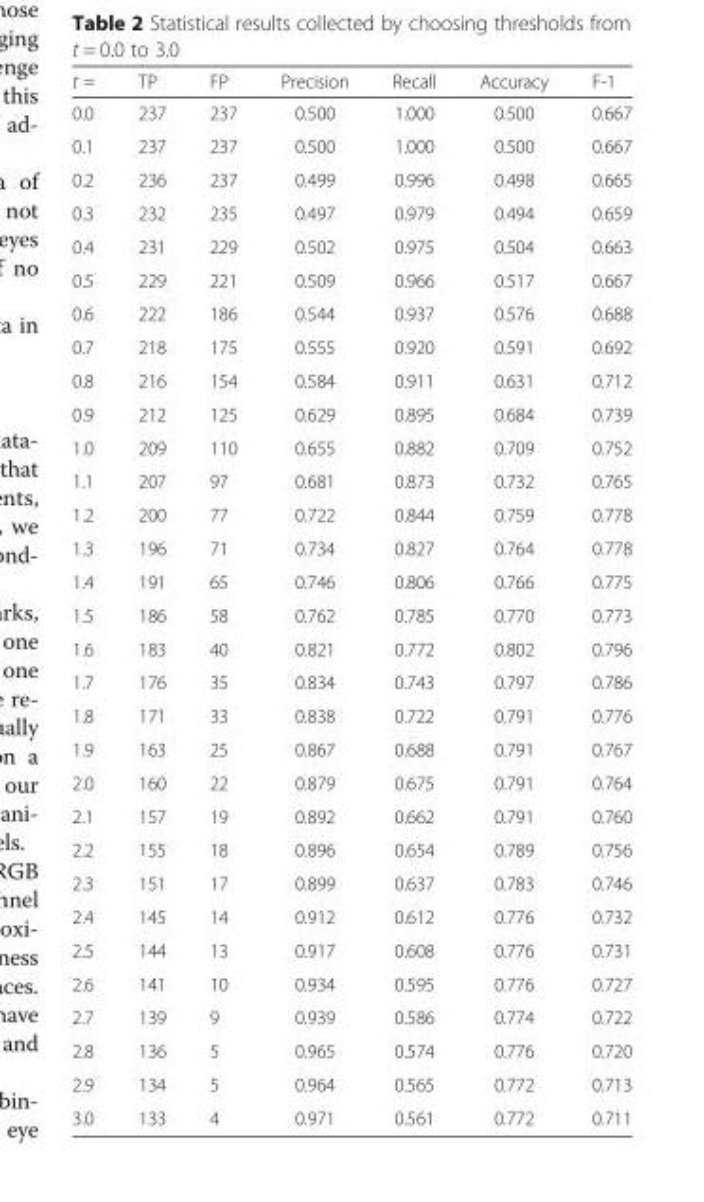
<table><thead><tr><td>t =</td><td>TP</td><td>FP</td><td>Precision</td><td>Recall</td><td>Accuracy</td><td>F-1</td></tr></thead><tbody><tr><td>0.0</td><td>237</td><td>237</td><td>0.500</td><td>1.000</td><td>0.500</td><td>0.667</td></tr><tr><td>0.1</td><td>237</td><td>237</td><td>0.500</td><td>1.000</td><td>0.500</td><td>0.667</td></tr><tr><td>0.2</td><td>236</td><td>237</td><td>0.499</td><td>0.996</td><td>0.498</td><td>0.665</td></tr><tr><td>0.3</td><td>232</td><td>235</td><td>0.497</td><td>0.979</td><td>0.494</td><td>0.659</td></tr><tr><td>0.4</td><td>231</td><td>229</td><td>0.502</td><td>0.975</td><td>0.504</td><td>0.663</td></tr><tr><td>0.5</td><td>229</td><td>221</td><td>0.509</td><td>0.966</td><td>0.517</td><td>0.667</td></tr><tr><td>0.6</td><td>222</td><td>186</td><td>0.544</td><td>0.937</td><td>0.576</td><td>0.688</td></tr><tr><td>0.7</td><td>218</td><td>175</td><td>0.555</td><td>0.920</td><td>0.591</td><td>0.692</td></tr><tr><td>0.8</td><td>216</td><td>154</td><td>0.584</td><td>0.911</td><td>0.631</td><td>0.712</td></tr><tr><td>0.9</td><td>212</td><td>125</td><td>0.629</td><td>0.895</td><td>0.684</td><td>0.739</td></tr><tr><td>1.0</td><td>209</td><td>110</td><td>0.655</td><td>0.882</td><td>0.709</td><td>0.752</td></tr><tr><td>1.1</td><td>207</td><td>97</td><td>0.681</td><td>0.873</td><td>0.732</td><td>0.765</td></tr><tr><td>1.2</td><td>200</td><td>77</td><td>0.722</td><td>0.844</td><td>0.759</td><td>0.778</td></tr><tr><td>1.3</td><td>196</td><td>71</td><td>0.734</td><td>0.827</td><td>0.764</td><td>0.778</td></tr><tr><td>1.4</td><td>191</td><td>65</td><td>0.746</td><td>0.806</td><td>0.766</td><td>0.775</td></tr><tr><td>1.5</td><td>186</td><td>58</td><td>0.762</td><td>0.785</td><td>0.770</td><td>0.773</td></tr><tr><td>1.6</td><td>183</td><td>40</td><td>0.821</td><td>0.772</td><td>0.802</td><td>0.796</td></tr><tr><td>1.7</td><td>176</td><td>35</td><td>0.834</td><td>0.743</td><td>0.797</td><td>0.786</td></tr><tr><td>1.8</td><td>171</td><td>33</td><td>0.838</td><td>0.722</td><td>0.791</td><td>0.776</td></tr><tr><td>1.9</td><td>163</td><td>25</td><td>0.867</td><td>0.688</td><td>0.791</td><td>0.767</td></tr><tr><td>2.0</td><td>160</td><td>22</td><td>0.879</td><td>0.675</td><td>0.791</td><td>0.764</td></tr><tr><td>2.1</td><td>157</td><td>19</td><td>0.892</td><td>0.662</td><td>0.791</td><td>0.760</td></tr><tr><td>2.2</td><td>155</td><td>18</td><td>0.896</td><td>0.654</td><td>0.789</td><td>0.756</td></tr><tr><td>2.3</td><td>151</td><td>17</td><td>0.899</td><td>0.637</td><td>0.783</td><td>0.746</td></tr><tr><td>2.4</td><td>145</td><td>14</td><td>0.912</td><td>0.612</td><td>0.776</td><td>0.732</td></tr><tr><td>2.5</td><td>144</td><td>13</td><td>0.917</td><td>0.608</td><td>0.776</td><td>0.731</td></tr><tr><td>2.6</td><td>141</td><td>10</td><td>0.934</td><td>0.595</td><td>0.776</td><td>0.727</td></tr><tr><td>2.7</td><td>139</td><td>9</td><td>0.939</td><td>0.586</td><td>0.774</td><td>0.722</td></tr><tr><td>2.8</td><td>136</td><td>5</td><td>0.965</td><td>0.574</td><td>0.776</td><td>0.720</td></tr><tr><td>2.9</td><td>134</td><td>5</td><td>0.964</td><td>0.565</td><td>0.772</td><td>0.713</td></tr><tr><td>3.0</td><td>133</td><td>4</td><td>0.971</td><td>0.561</td><td>0.772</td><td>0.711</td></tr></tbody></table>